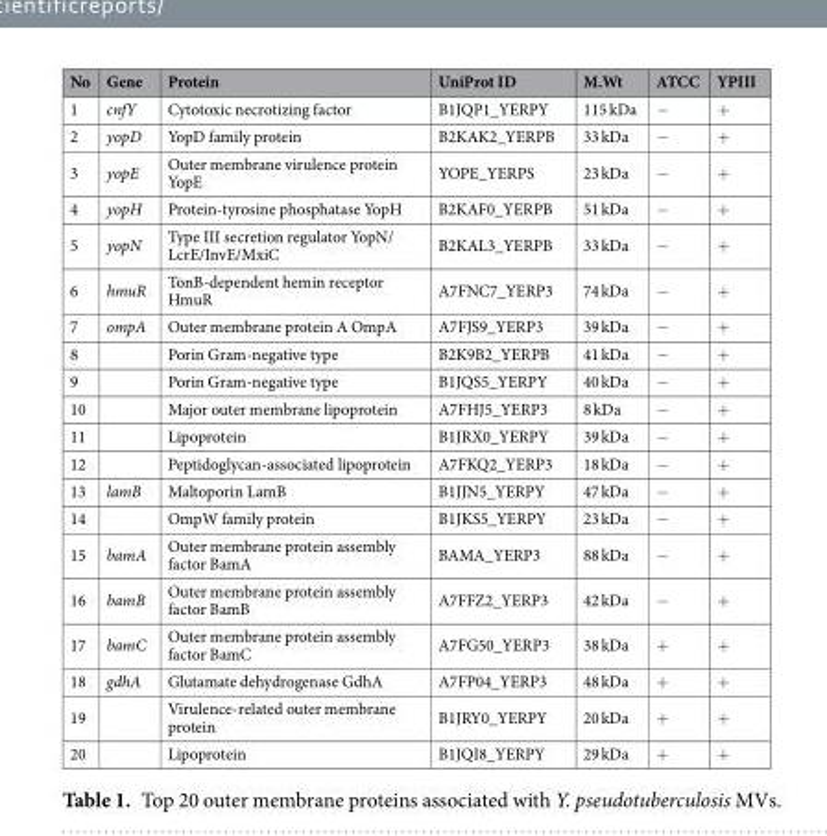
<table><thead><tr><td>No</td><td>Gene</td><td>Protein</td><td>UniProt ID</td><td>M.Wt</td><td>ATCC</td><td>YPIII</td></tr></thead><tbody><tr><td>1</td><td>cnfY</td><td>Cytotoxic necrotizing factor</td><td>B1JQP1_YERPY</td><td>115 kDa</td><td>−</td><td>+</td></tr><tr><td>2</td><td>yopD</td><td>YopD family protein</td><td>B2KAK2_YERPB</td><td>33 kDa</td><td>−</td><td>+</td></tr><tr><td>3</td><td>yopE</td><td>Outer membrane virulence protein YopE</td><td>YOPE_YERPS</td><td>23 kDa</td><td>−</td><td>+</td></tr><tr><td>4</td><td>yopH</td><td>Protein-tyrosine phosphatase YopH</td><td>B2KAF0_YERPB</td><td>51 kDa</td><td>−</td><td>+</td></tr><tr><td>5</td><td>yopN</td><td>Type III secretion regulator YopN/ LcrE/InvE/MxiC</td><td>B2KAL3_YERPB</td><td>33 kDa</td><td>−</td><td>+</td></tr><tr><td>6</td><td>hmuR</td><td>TonB-dependent hemin receptor HmuR</td><td>A7FNC7_YERP3</td><td>74 kDa</td><td>−</td><td>+</td></tr><tr><td>7</td><td>ompA</td><td>Outer membrane protein A OmpA</td><td>A7FJS9_YERP3</td><td>39 kDa</td><td>−</td><td>+</td></tr><tr><td>8</td><td></td><td>Porin Gram-negative type</td><td>B2K9B2_YERPB</td><td>41 kDa</td><td>−</td><td>+</td></tr><tr><td>9</td><td></td><td>Porin Gram-negative type</td><td>B1JQS5_YERPY</td><td>40 kDa</td><td>−</td><td>+</td></tr><tr><td>10</td><td></td><td>Major outer membrane lipoprotein</td><td>A7FHJ5_YERP3</td><td>8 kDa</td><td>−</td><td>+</td></tr><tr><td>11</td><td></td><td>Lipoprotein</td><td>B1JRX0_YERPY</td><td>39 kDa</td><td>−</td><td>+</td></tr><tr><td>12</td><td></td><td>Peptidoglycan-associated lipoprotein</td><td>A7FKQ2_YERP3</td><td>18 kDa</td><td>−</td><td>+</td></tr><tr><td>13</td><td>lamB</td><td>Maltoporin LamB</td><td>B1JJN5_YERPY</td><td>47 kDa</td><td>−</td><td>+</td></tr><tr><td>14</td><td></td><td>OmpW family protein</td><td>B1JKS5_YERPY</td><td>23 kDa</td><td>−</td><td>+</td></tr><tr><td>15</td><td>bamA</td><td>Outer membrane protein assembly factor BamA</td><td>BAMA_YERP3</td><td>88 kDa</td><td>−</td><td>+</td></tr><tr><td>16</td><td>bamB</td><td>Outer membrane protein assembly factor BamB</td><td>A7FFZ2_YERP3</td><td>42 kDa</td><td>−</td><td>+</td></tr><tr><td>17</td><td>bamC</td><td>Outer membrane protein assembly factor BamC</td><td>A7FG50_YERP3</td><td>38 kDa</td><td>+</td><td>+</td></tr><tr><td>18</td><td>gdhA</td><td>Glutamate dehydrogenase GdhA</td><td>A7FP04_YERP3</td><td>48 kDa</td><td>+</td><td>+</td></tr><tr><td>19</td><td></td><td>Virulence-related outer membrane protein</td><td>B1JRY0_YERPY</td><td>20 kDa</td><td>+</td><td>+</td></tr><tr><td>20</td><td></td><td>Lipoprotein</td><td>B1JQI8_YERPY</td><td>29 kDa</td><td>+</td><td>+</td></tr></tbody></table>